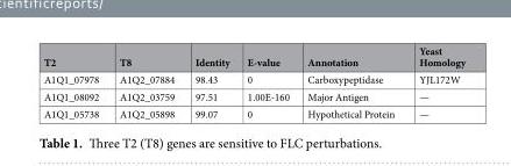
<table><thead><tr><td>T2</td><td>T8</td><td>Identity</td><td>E-value</td><td>Annotation</td><td>Yeast Homology</td></tr></thead><tbody><tr><td>A1Q1_07978</td><td>A1Q2_07884</td><td>98.43</td><td>0</td><td>Carboxypeptidase</td><td>YJL172W</td></tr><tr><td>A1Q1_08092</td><td>A1Q2_03759</td><td>97.51</td><td>1.00E-160</td><td>Major Antigen</td><td>—</td></tr><tr><td>A1Q1_05738</td><td>A1Q2_05898</td><td>99.07</td><td>0</td><td>Hypothetical Protein</td><td>—</td></tr></tbody></table>